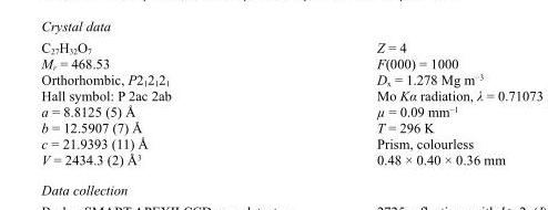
<table><tbody><tr><td>C<sub>27</sub>H<sub>32</sub>O<sub>7</sub></td><td>Z = 4</td></tr><tr><td>M<sub>r</sub> = 468.53</td><td>F(000) = 1000</td></tr><tr><td>Orthorhombic, P2<sub>1</sub>2<sub>1</sub>2<sub>1</sub></td><td>D<sub>x</sub> = 1.278 Mg m<sup>−3</sup></td></tr><tr><td>Hall symbol: P 2ac 2ab</td><td>Mo Kα radiation, λ =</td></tr><tr><td>a = 8.8125 (5) Å</td><td>µ = 0.09 mm<sup>−1</sup></td></tr><tr><td>b = 12.5907 (7) Å</td><td>T = 296 K</td></tr><tr><td>c = 21.9393 (11) Å</td><td>Prism, colourless</td></tr><tr><td>V = 2434.3 (2) Å<sup>3</sup></td><td>0.48 × 0.40 × 0.36 mm</td></tr></tbody></table>